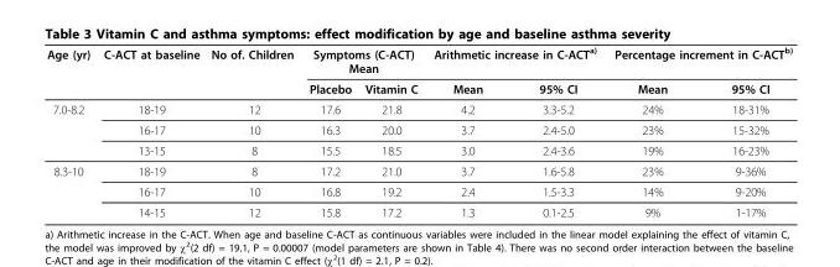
<table><thead><tr><td rowspan="2">Age (yr)</td><td rowspan="2">C-ACT at baseline</td><td rowspan="2">No of. Children</td><td colspan="2">Symptoms (C-ACT) Mean</td><td colspan="2">Arithmetic increase in C-ACTa)</td><td colspan="2">Percentage increment in C-ACTb)</td></tr><tr><td>Placebo</td><td>Vitamin C</td><td>Mean</td><td>95% CI</td><td>Mean</td><td>95% CI</td></tr></thead><tbody><tr><td rowspan="3">7.0-8.2</td><td>18-19</td><td>12</td><td>17.6</td><td>21.8</td><td>4.2</td><td>3.3-5.2</td><td>24%</td><td>18-31%</td></tr><tr><td>16-17</td><td>10</td><td>16.3</td><td>20.0</td><td>3.7</td><td>2.4-5.0</td><td>23%</td><td>15-32%</td></tr><tr><td>13-15</td><td>8</td><td>15.5</td><td>18.5</td><td>3.0</td><td>2.4-3.6</td><td>19%</td><td>16-23%</td></tr><tr><td rowspan="3">8.3-10</td><td>18-19</td><td>8</td><td>17.2</td><td>21.0</td><td>3.7</td><td>1.6-5.8</td><td>23%</td><td>9-36%</td></tr><tr><td>16-17</td><td>10</td><td>16.8</td><td>19.2</td><td>2.4</td><td>1.5-3.3</td><td>14%</td><td>9-20%</td></tr><tr><td>14-15</td><td>12</td><td>15.8</td><td>17.2</td><td>1.3</td><td>0.1-2.5</td><td>9%</td><td>1-17%</td></tr></tbody></table>